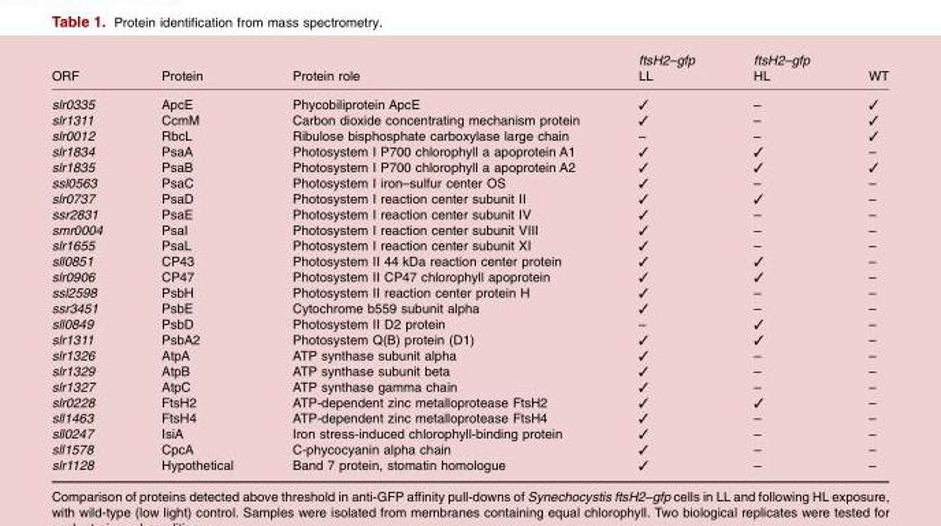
<table><thead><tr><td>ORF</td><td>Protein</td><td>Protein role</td><td>ftsH2–gfp LL</td><td>ftsH2–gfp HL</td><td>WT</td></tr></thead><tbody><tr><td>slr0335</td><td>ApcE</td><td>Phycobiliprotein ApcE</td><td>✓</td><td>–</td><td>✓</td></tr><tr><td>slr1311</td><td>CcmM</td><td>Carbon dioxide concentrating mechanism protein</td><td>✓</td><td>–</td><td>✓</td></tr><tr><td>slr0012</td><td>RbcL</td><td>Ribulose bisphosphate carboxylase large chain</td><td>–</td><td>–</td><td>✓</td></tr><tr><td>slr1834</td><td>PsaA</td><td>Photosystem I P700 chlorophyll a apoprotein A1</td><td>✓</td><td>✓</td><td>–</td></tr><tr><td>slr1835</td><td>PsaB</td><td>Photosystem I P700 chlorophyll a apoprotein A2</td><td>✓</td><td>✓</td><td>✓</td></tr><tr><td>ssl0563</td><td>PsaC</td><td>Photosystem I iron–sulfur center OS</td><td>✓</td><td>–</td><td>–</td></tr><tr><td>slr0737</td><td>PsaD</td><td>Photosystem I reaction center subunit II</td><td>✓</td><td>✓</td><td>–</td></tr><tr><td>ssr2831</td><td>PsaE</td><td>Photosystem I reaction center subunit IV</td><td>✓</td><td>–</td><td>–</td></tr><tr><td>smr0004</td><td>PsaI</td><td>Photosystem I reaction center subunit VIII</td><td>✓</td><td>–</td><td>–</td></tr><tr><td>slr1655</td><td>PsaL</td><td>Photosystem I reaction center subunit XI</td><td>✓</td><td>–</td><td>–</td></tr><tr><td>sll0851</td><td>CP43</td><td>Photosystem II 44 kDa reaction center protein</td><td>✓</td><td>✓</td><td>–</td></tr><tr><td>slr0906</td><td>CP47</td><td>Photosystem II CP47 chlorophyll apoprotein</td><td>✓</td><td>✓</td><td>–</td></tr><tr><td>ssl2598</td><td>PsbH</td><td>Photosystem II reaction center protein H</td><td>✓</td><td>–</td><td>–</td></tr><tr><td>ssr3451</td><td>PsbE</td><td>Cytochrome b559 subunit alpha</td><td>✓</td><td>–</td><td>–</td></tr><tr><td>sll0849</td><td>PsbD</td><td>Photosystem II D2 protein</td><td>–</td><td>✓</td><td>–</td></tr><tr><td>slr1311</td><td>PsbA2</td><td>Photosystem Q(B) protein (D1)</td><td>✓</td><td>✓</td><td>–</td></tr><tr><td>slr1326</td><td>AtpA</td><td>ATP synthase subunit alpha</td><td>✓</td><td>–</td><td>–</td></tr><tr><td>slr1329</td><td>AtpB</td><td>ATP synthase subunit beta</td><td>✓</td><td>–</td><td>–</td></tr><tr><td>slr1327</td><td>AtpC</td><td>ATP synthase gamma chain</td><td>✓</td><td>–</td><td>–</td></tr><tr><td>slr0228</td><td>FtsH2</td><td>ATP-dependent zinc metalloprotease FtsH2</td><td>✓</td><td>✓</td><td>–</td></tr><tr><td>sll1463</td><td>FtsH4</td><td>ATP-dependent zinc metalloprotease FtsH4</td><td>✓</td><td>–</td><td>–</td></tr><tr><td>sll0247</td><td>IsiA</td><td>Iron stress-induced chlorophyll-binding protein</td><td>✓</td><td>–</td><td>–</td></tr><tr><td>sll1578</td><td>CpcA</td><td>C-phycocyanin alpha chain</td><td>✓</td><td>–</td><td>–</td></tr><tr><td>slr1128</td><td>Hypothetical</td><td>Band 7 protein, stomatin homologue</td><td>✓</td><td>–</td><td>–</td></tr></tbody></table>